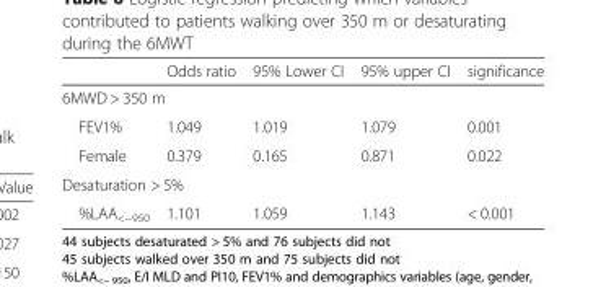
<table><thead><tr><td></td><td>Odds ratio</td><td>95% Lower CI</td><td>95% upper CI</td><td>significance</td></tr></thead><tbody><tr><td colspan="5">6MWD &gt; 350 m</td></tr><tr><td>FEV1%</td><td>1.049</td><td>1.019</td><td>1.079</td><td>0.001</td></tr><tr><td>Female</td><td>0.379</td><td>0.165</td><td>0.871</td><td>0.022</td></tr><tr><td colspan="5">Desaturation &gt; 5%</td></tr><tr><td>%LAA<sub>&lt;−950</sub></td><td>1.101</td><td>1.059</td><td>1.143</td><td>&lt; 0.001</td></tr></tbody></table>